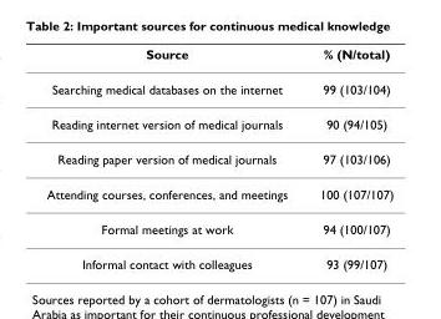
<table><thead><tr><td>Source</td><td>% (N/total)</td></tr></thead><tbody><tr><td>Searching medical databases on the internet</td><td>99 (103/104)</td></tr><tr><td>Reading internet version of medical journals</td><td>90 (94/105)</td></tr><tr><td>Reading paper version of medical journals</td><td>97 (103/106)</td></tr><tr><td>Attending courses, conferences, and meetings</td><td>100 (107/107)</td></tr><tr><td>Formal meetings at work</td><td>94 (100/107)</td></tr><tr><td>Informal contact with colleagues</td><td>93 (99/107)</td></tr></tbody></table>